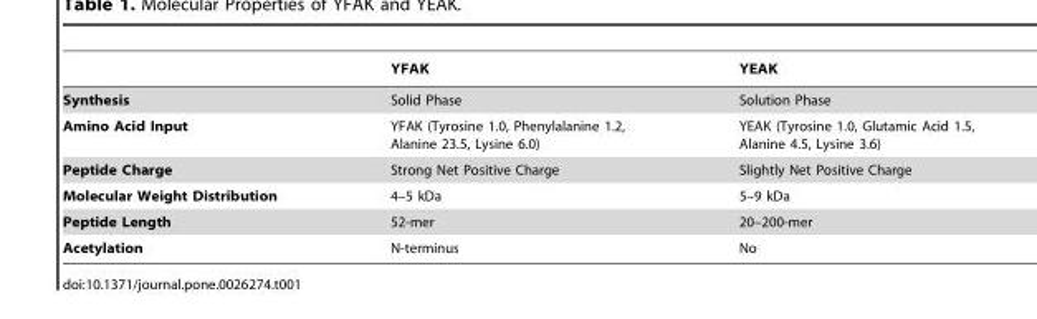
<table><thead><tr><td></td><td>YFAK</td><td>YEAK</td></tr></thead><tbody><tr><td>Synthesis</td><td>Solid Phase</td><td>Solution Phase</td></tr><tr><td>Amino Acid Input</td><td>YFAK (Tyrosine 1.0, Phenylalanine 1.2, Alanine 23.5, Lysine 6.0)</td><td>YEAK (Tyrosine 1.0, Glutamic Acid 1.5, Alanine 4.5, Lysine 3.6)</td></tr><tr><td>Peptide Charge</td><td>Strong Net Positive Charge</td><td>Slightly Net Positive Charge</td></tr><tr><td>Molecular Weight Distribution</td><td>4–5 kDa</td><td>5–9 kDa</td></tr><tr><td>Peptide Length</td><td>52-mer</td><td>20–200-mer</td></tr><tr><td>Acetylation</td><td>N-terminus</td><td>No</td></tr></tbody></table>